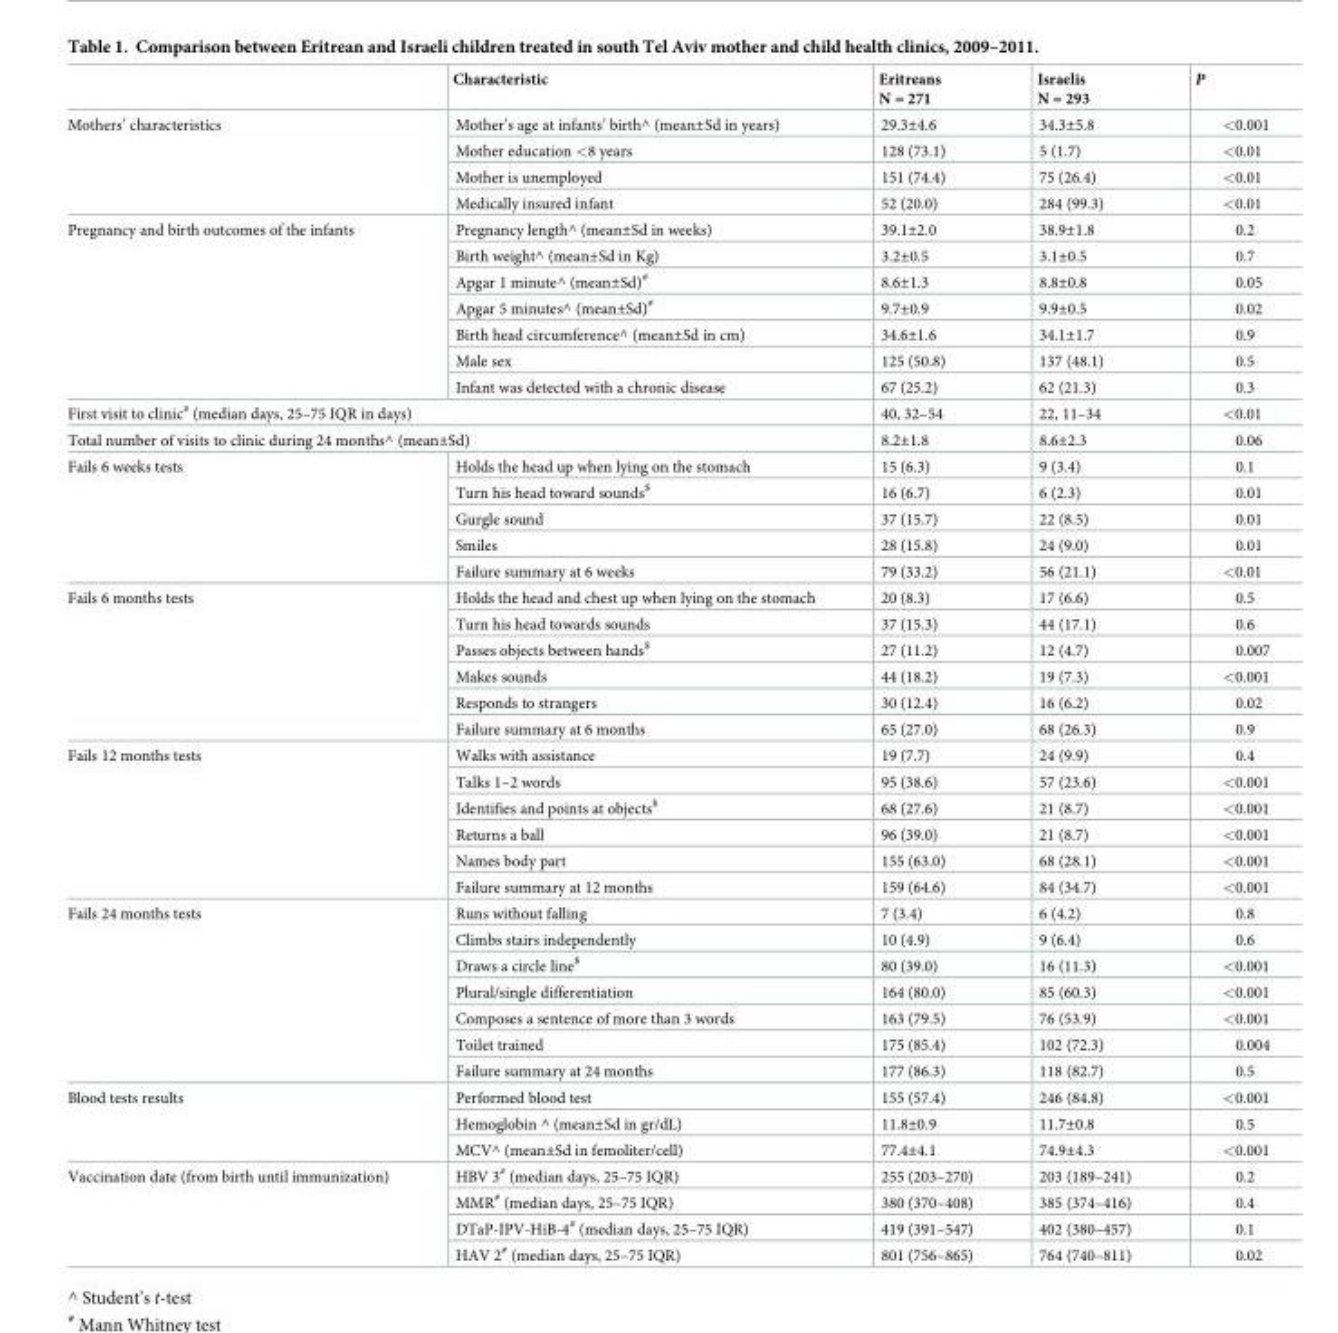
<table><thead><tr><td></td><td>Characteristic</td><td>Eritreans N = 271</td><td>Israelis N = 293</td><td>P</td></tr></thead><tbody><tr><td rowspan="4">Mothers’ characteristics</td><td>Mother’s age at infants’ birth^ (mean±Sd in years)</td><td>29.3±4.6</td><td>34.3±5.8</td><td>&lt;0.001</td></tr><tr><td>Mother education &lt;8 years</td><td>128 (73.1)</td><td>5 (1.7)</td><td>&lt;0.01</td></tr><tr><td>Mother is unemployed</td><td>151 (74.4)</td><td>75 (26.4)</td><td>&lt;0.01</td></tr><tr><td>Medically insured infant</td><td>52 (20.0)</td><td>284 (99.3)</td><td>&lt;0.01</td></tr><tr><td rowspan="7">Pregnancy and birth outcomes of the infants</td><td>Pregnancy length^ (mean±Sd in weeks)</td><td>39.1±2.0</td><td>38.9±1.8</td><td>0.2</td></tr><tr><td>Birth weight^ (mean±Sd in Kg)</td><td>3.2±0.5</td><td>3.1±0.5</td><td>0.7</td></tr><tr><td>Apgar 1 minute^ (mean±Sd)<sup>#</sup></td><td>8.6±1.3</td><td>8.8±0.8</td><td>0.05</td></tr><tr><td>Apgar 5 minutes^ (mean±Sd)<sup>#</sup></td><td>9.7±0.9</td><td>9.9±0.5</td><td>0.02</td></tr><tr><td>Birth head circumference^ (mean±Sd in cm)</td><td>34.6±1.6</td><td>34.1±1.7</td><td>0.9</td></tr><tr><td>Male sex</td><td>125 (50.8)</td><td>137 (48.1)</td><td>0.5</td></tr><tr><td>Infant was detected with a chronic disease</td><td>67 (25.2)</td><td>62 (21.3)</td><td>0.3</td></tr><tr><td colspan="2">First visit to clinic<sup>#</sup> (median days, 25–75 IQR in days)</td><td>40, 32–54</td><td>22, 11–34</td><td>&lt;0.01</td></tr><tr><td colspan="2">Total number of visits to clinic during 24 months^ (mean±Sd)</td><td>8.2±1.8</td><td>8.6±2.3</td><td>0.06</td></tr><tr><td rowspan="5">Fails 6 weeks tests</td><td>Holds the head up when lying on the stomach</td><td>15 (6.3)</td><td>9 (3.4)</td><td>0.1</td></tr><tr><td>Turn his head toward sounds<sup>$</sup></td><td>16 (6.7)</td><td>6 (2.3)</td><td>0.01</td></tr><tr><td>Gurgle sound</td><td>37 (15.7)</td><td>22 (8.5)</td><td>0.01</td></tr><tr><td>Smiles</td><td>28 (15.8)</td><td>24 (9.0)</td><td>0.01</td></tr><tr><td>Failure summary at 6 weeks</td><td>79 (33.2)</td><td>56 (21.1)</td><td>&lt;0.01</td></tr><tr><td rowspan="6">Fails 6 months tests</td><td>Holds the head and chest up when lying on the stomach</td><td>20 (8.3)</td><td>17 (6.6)</td><td>0.5</td></tr><tr><td>Turn his head towards sounds</td><td>37 (15.3)</td><td>44 (17.1)</td><td>0.6</td></tr><tr><td>Passes objects between hands<sup>$</sup></td><td>27 (11.2)</td><td>12 (4.7)</td><td>0.007</td></tr><tr><td>Makes sounds</td><td>44 (18.2)</td><td>19 (7.3)</td><td>&lt;0.001</td></tr><tr><td>Responds to strangers</td><td>30 (12.4)</td><td>16 (6.2)</td><td>0.02</td></tr><tr><td>Failure summary at 6 months</td><td>65 (27.0)</td><td>68 (26.3)</td><td>0.9</td></tr><tr><td rowspan="6">Fails 12 months tests</td><td>Walks with assistance</td><td>19 (7.7)</td><td>24 (9.9)</td><td>0.4</td></tr><tr><td>Talks 1–2 words</td><td>95 (38.6)</td><td>57 (23.6)</td><td>&lt;0.001</td></tr><tr><td>Identifies and points at objects<sup>$</sup></td><td>68 (27.6)</td><td>21 (8.7)</td><td>&lt;0.001</td></tr><tr><td>Returns a ball</td><td>96 (39.0)</td><td>21 (8.7)</td><td>&lt;0.001</td></tr><tr><td>Names body part</td><td>155 (63.0)</td><td>68 (28.1)</td><td>&lt;0.001</td></tr><tr><td>Failure summary at 12 months</td><td>159 (64.6)</td><td>84 (34.7)</td><td>&lt;0.001</td></tr><tr><td rowspan="7">Fails 24 months tests</td><td>Runs without falling</td><td>7 (3.4)</td><td>6 (4.2)</td><td>0.8</td></tr><tr><td>Climbs stairs independently</td><td>10 (4.9)</td><td>9 (6.4)</td><td>0.6</td></tr><tr><td>Draws a circle line<sup>$</sup></td><td>80 (39.0)</td><td>16 (11.3)</td><td>&lt;0.001</td></tr><tr><td>Plural/single differentiation</td><td>164 (80.0)</td><td>85 (60.3)</td><td>&lt;0.001</td></tr><tr><td>Composes a sentence of more than 3 words</td><td>163 (79.5)</td><td>76 (53.9)</td><td>&lt;0.001</td></tr><tr><td>Toilet trained</td><td>175 (85.4)</td><td>102 (72.3)</td><td>0.004</td></tr><tr><td>Failure summary at 24 months</td><td>177 (86.3)</td><td>118 (82.7)</td><td>0.5</td></tr><tr><td rowspan="3">Blood tests results</td><td>Performed blood test</td><td>155 (57.4)</td><td>246 (84.8)</td><td>&lt;0.001</td></tr><tr><td>Hemoglobin ^ (mean±Sd in gr/dL)</td><td>11.8±0.9</td><td>11.7±0.8</td><td>0.5</td></tr><tr><td>MCV^ (mean±Sd in femoliter/cell)</td><td>77.4±4.1</td><td>74.9±4.3</td><td>&lt;0.001</td></tr><tr><td rowspan="4">Vaccination date (from birth until immunization)</td><td>HBV 3<sup>#</sup> (median days, 25–75 IQR)</td><td>255 (203–270)</td><td>203 (189–241)</td><td>0.2</td></tr><tr><td>MMR<sup>#</sup> (median days, 25–75 IQR)</td><td>380 (370–408)</td><td>385 (374–416)</td><td>0.4</td></tr><tr><td>DTaP-IPV-HiB-4<sup>#</sup> (median days, 25–75 IQR)</td><td>419 (391–547)</td><td>402 (380–457)</td><td>0.1</td></tr><tr><td>HAV 2<sup>#</sup> (median days, 25–75 IQR)</td><td>801 (756–865)</td><td>764 (740–811)</td><td>0.02</td></tr></tbody></table>